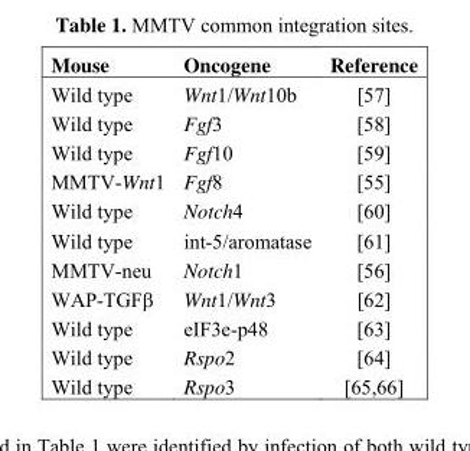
<table><thead><tr><td>Mouse</td><td>Oncogene</td><td>Reference</td></tr></thead><tbody><tr><td>Wild type</td><td>Wnt1/Wnt10b</td><td>[57]</td></tr><tr><td>Wild type</td><td>Fgf3</td><td>[58]</td></tr><tr><td>Wild type</td><td>Fgf10</td><td>[59]</td></tr><tr><td>MMTV-Wnt1</td><td>Fgf8</td><td>[55]</td></tr><tr><td>Wild type</td><td>Notch4</td><td>[60]</td></tr><tr><td>Wild type</td><td>int-5/aromatase</td><td>[61]</td></tr><tr><td>MMTV-neu</td><td>Notch1</td><td>[56]</td></tr><tr><td>WAP-TGFβ</td><td>Wnt1/Wnt3</td><td>[62]</td></tr><tr><td>Wild type</td><td>eIF3e-p48</td><td>[63]</td></tr><tr><td>Wild type</td><td>Rspo2</td><td>[64]</td></tr><tr><td>Wild type</td><td>Rspo3</td><td>[65,66]</td></tr></tbody></table>